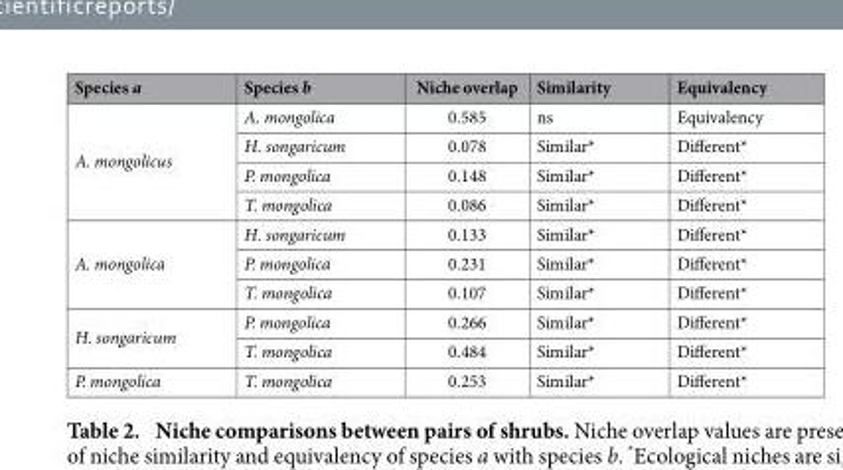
<table><thead><tr><td>Species a</td><td>Species b</td><td>Niche overlap</td><td>Similarity</td><td>Equivalency</td></tr></thead><tbody><tr><td rowspan="4">A. mongolicus</td><td>A. mongolica</td><td>0.585</td><td>ns</td><td>Equivalency</td></tr><tr><td>H. songaricum</td><td>0.078</td><td>Similar*</td><td>Different*</td></tr><tr><td>P. mongolica</td><td>0.148</td><td>Similar*</td><td>Different*</td></tr><tr><td>T. mongolica</td><td>0.086</td><td>Similar*</td><td>Different*</td></tr><tr><td rowspan="3">A. mongolica</td><td>H. songaricum</td><td>0.133</td><td>Similar*</td><td>Different*</td></tr><tr><td>P. mongolica</td><td>0.231</td><td>Similar*</td><td>Different*</td></tr><tr><td>T. mongolica</td><td>0.107</td><td>Similar*</td><td>Different*</td></tr><tr><td rowspan="2">H. songaricum</td><td>P. mongolica</td><td>0.266</td><td>Similar*</td><td>Different*</td></tr><tr><td>T. mongolica</td><td>0.484</td><td>Similar*</td><td>Different*</td></tr><tr><td>P. mongolica</td><td>T. mongolica</td><td>0.253</td><td>Similar*</td><td>Different*</td></tr></tbody></table>